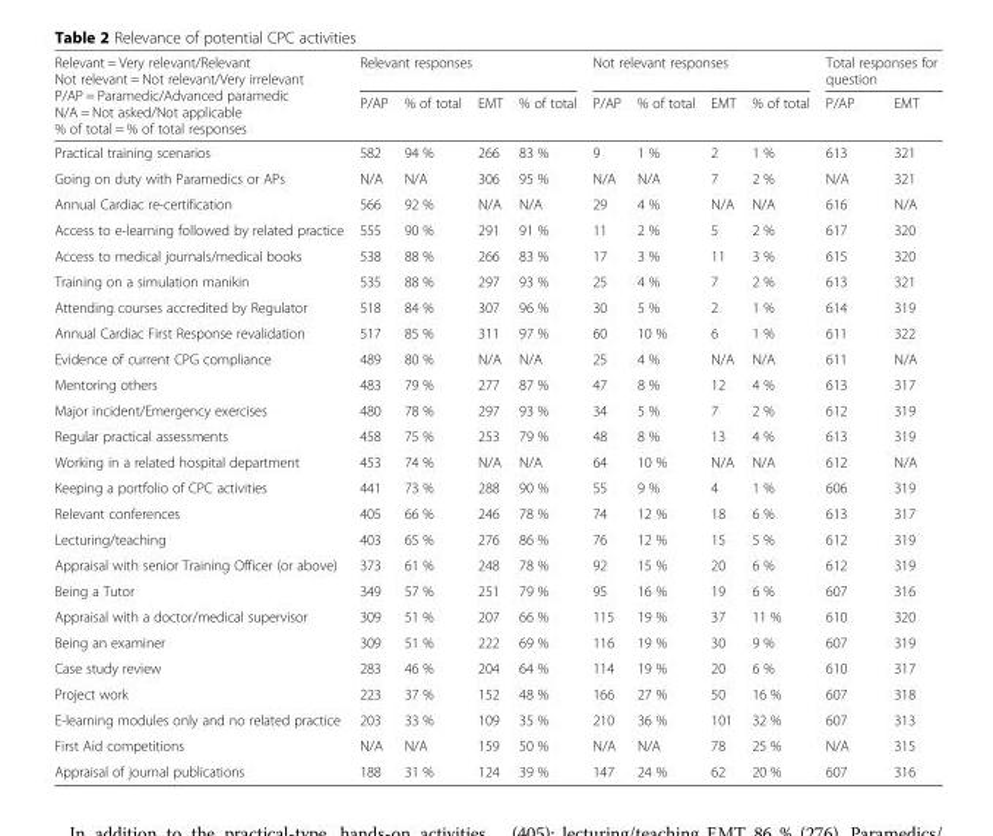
<table><thead><tr><td rowspan="2">Relevant = Very relevant/Relevant Not relevant = Not relevant/Very irrelevant P/AP = Paramedic/Advanced paramedic N/A = Not asked/Not applicable % of total = % of total responses</td><td colspan="4">Relevant responses</td><td colspan="4">Not relevant responses</td><td colspan="2">Total responses for question</td></tr><tr><td>P/AP</td><td>% of total</td><td>EMT</td><td>% of total</td><td>P/AP</td><td>% of total</td><td>EMT</td><td>% of total</td><td>P/AP</td><td>EMT</td></tr></thead><tbody><tr><td>Practical training scenarios</td><td>582</td><td>94 %</td><td>266</td><td>83 %</td><td>9</td><td>1 %</td><td>2</td><td>1 %</td><td>613</td><td>321</td></tr><tr><td>Going on duty with Paramedics or APs</td><td>N/A</td><td>N/A</td><td>306</td><td>95 %</td><td>N/A</td><td>N/A</td><td>7</td><td>2 %</td><td>N/A</td><td>321</td></tr><tr><td>Annual Cardiac re-certification</td><td>566</td><td>92 %</td><td>N/A</td><td>N/A</td><td>29</td><td>4 %</td><td>N/A</td><td>N/A</td><td>616</td><td>N/A</td></tr><tr><td>Access to e-learning followed by related practice</td><td>555</td><td>90 %</td><td>291</td><td>91 %</td><td>11</td><td>2 %</td><td>5</td><td>2 %</td><td>617</td><td>320</td></tr><tr><td>Access to medical journals/medical books</td><td>538</td><td>88 %</td><td>266</td><td>83 %</td><td>17</td><td>3 %</td><td>11</td><td>3 %</td><td>615</td><td>320</td></tr><tr><td>Training on a simulation manikin</td><td>535</td><td>88 %</td><td>297</td><td>93 %</td><td>25</td><td>4 %</td><td>7</td><td>2 %</td><td>613</td><td>321</td></tr><tr><td>Attending courses accredited by Regulator</td><td>518</td><td>84 %</td><td>307</td><td>96 %</td><td>30</td><td>5 %</td><td>2</td><td>1 %</td><td>614</td><td>319</td></tr><tr><td>Annual Cardiac First Response revalidation</td><td>517</td><td>85 %</td><td>311</td><td>97 %</td><td>60</td><td>10 %</td><td>6</td><td>1 %</td><td>611</td><td>322</td></tr><tr><td>Evidence of current CPG compliance</td><td>489</td><td>80 %</td><td>N/A</td><td>N/A</td><td>25</td><td>4 %</td><td>N/A</td><td>N/A</td><td>611</td><td>N/A</td></tr><tr><td>Mentoring others</td><td>483</td><td>79 %</td><td>277</td><td>87 %</td><td>47</td><td>8 %</td><td>12</td><td>4 %</td><td>613</td><td>317</td></tr><tr><td>Major incident/Emergency exercises</td><td>480</td><td>78 %</td><td>297</td><td>93 %</td><td>34</td><td>5 %</td><td>7</td><td>2 %</td><td>612</td><td>319</td></tr><tr><td>Regular practical assessments</td><td>458</td><td>75 %</td><td>253</td><td>79 %</td><td>48</td><td>8 %</td><td>13</td><td>4 %</td><td>613</td><td>319</td></tr><tr><td>Working in a related hospital department</td><td>453</td><td>74 %</td><td>N/A</td><td>N/A</td><td>64</td><td>10 %</td><td>N/A</td><td>N/A</td><td>612</td><td>N/A</td></tr><tr><td>Keeping a portfolio of CPC activities</td><td>441</td><td>73 %</td><td>288</td><td>90 %</td><td>55</td><td>9 %</td><td>4</td><td>1 %</td><td>606</td><td>319</td></tr><tr><td>Relevant conferences</td><td>405</td><td>66 %</td><td>246</td><td>78 %</td><td>74</td><td>12 %</td><td>18</td><td>6 %</td><td>613</td><td>317</td></tr><tr><td>Lecturing/teaching</td><td>403</td><td>65 %</td><td>276</td><td>86 %</td><td>76</td><td>12 %</td><td>15</td><td>5 %</td><td>612</td><td>319</td></tr><tr><td>Appraisal with senior Training Officer (or above)</td><td>373</td><td>61 %</td><td>248</td><td>78 %</td><td>92</td><td>15 %</td><td>20</td><td>6 %</td><td>612</td><td>319</td></tr><tr><td>Being a Tutor</td><td>349</td><td>57 %</td><td>251</td><td>79 %</td><td>95</td><td>16 %</td><td>19</td><td>6 %</td><td>607</td><td>316</td></tr><tr><td>Appraisal with a doctor/medical supervisor</td><td>309</td><td>51 %</td><td>207</td><td>66 %</td><td>115</td><td>19 %</td><td>37</td><td>11 %</td><td>610</td><td>320</td></tr><tr><td>Being an examiner</td><td>309</td><td>51 %</td><td>222</td><td>69 %</td><td>116</td><td>19 %</td><td>30</td><td>9 %</td><td>607</td><td>319</td></tr><tr><td>Case study review</td><td>283</td><td>46 %</td><td>204</td><td>64 %</td><td>114</td><td>19 %</td><td>20</td><td>6 %</td><td>610</td><td>317</td></tr><tr><td>Project work</td><td>223</td><td>37 %</td><td>152</td><td>48 %</td><td>166</td><td>27 %</td><td>50</td><td>16 %</td><td>607</td><td>318</td></tr><tr><td>E-learning modules only and no related practice</td><td>203</td><td>33 %</td><td>109</td><td>35 %</td><td>210</td><td>36 %</td><td>101</td><td>32 %</td><td>607</td><td>313</td></tr><tr><td>First Aid competitions</td><td>N/A</td><td>N/A</td><td>159</td><td>50 %</td><td>N/A</td><td>N/A</td><td>78</td><td>25 %</td><td>N/A</td><td>315</td></tr><tr><td>Appraisal of journal publications</td><td>188</td><td>31 %</td><td>124</td><td>39 %</td><td>147</td><td>24 %</td><td>62</td><td>20 %</td><td>607</td><td>316</td></tr></tbody></table>